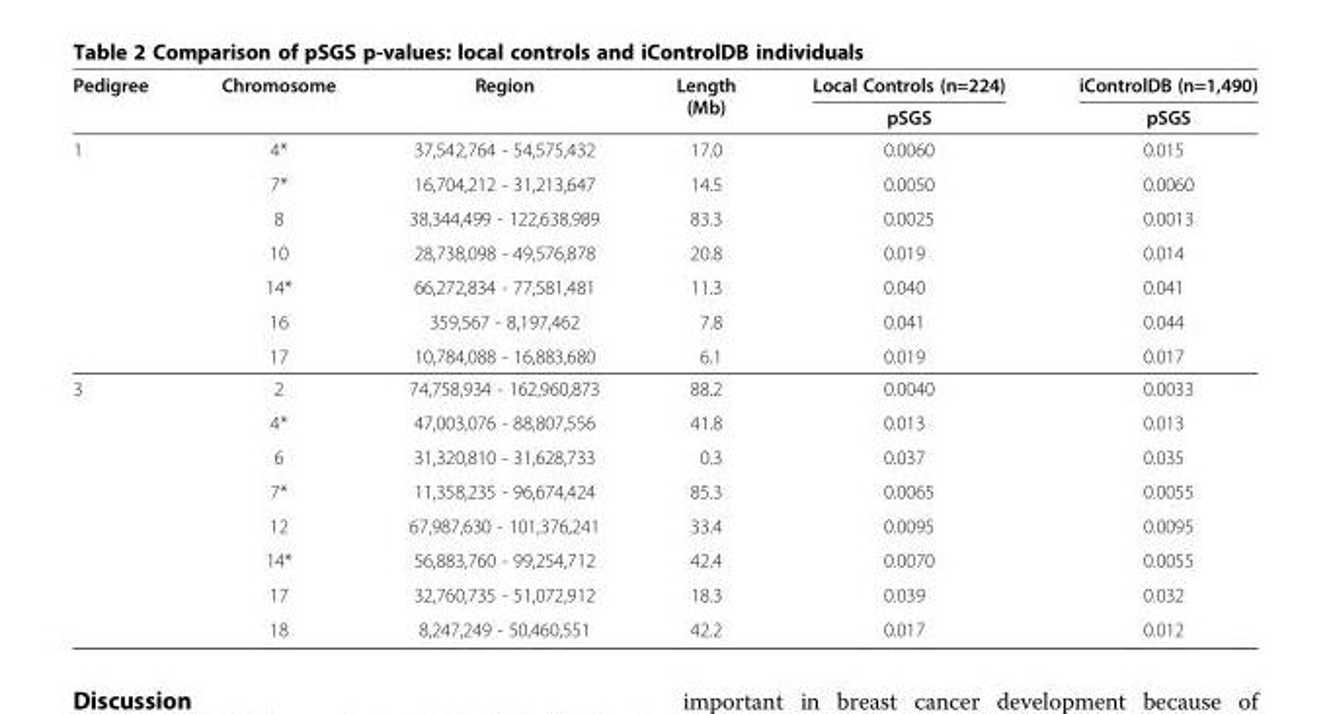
<table><thead><tr><td rowspan="2">Pedigree</td><td rowspan="2">Chromosome</td><td rowspan="2">Region</td><td rowspan="2">Length (Mb)</td><td rowspan="2">Local Controls (n=224) pSGS</td><td rowspan="2">iControlDB (n=1,490) pSGS</td></tr><tr></tr></thead><tbody><tr><td rowspan="7">1</td><td>4*</td><td>37,542,764 - 54,575,432</td><td>17.0</td><td>0.0060</td><td>0.015</td></tr><tr><td>7*</td><td>16,704,212 - 31,213,647</td><td>14.5</td><td>0.0050</td><td>0.0060</td></tr><tr><td>8</td><td>38,344,499 - 122,638,989</td><td>83.3</td><td>0.0025</td><td>0.0013</td></tr><tr><td>10</td><td>28,738,098 - 49,576,878</td><td>20.8</td><td>0.019</td><td>0.014</td></tr><tr><td>14*</td><td>66,272,834 - 77,581,481</td><td>11.3</td><td>0.040</td><td>0.041</td></tr><tr><td>16</td><td>359,567 - 8,197,462</td><td>7.8</td><td>0.041</td><td>0.044</td></tr><tr><td>17</td><td>10,784,088 - 16,883,680</td><td>6.1</td><td>0.019</td><td>0.017</td></tr><tr><td rowspan="8">3</td><td>2</td><td>74,758,934 - 162,960,873</td><td>88.2</td><td>0.0040</td><td>0.0033</td></tr><tr><td>4*</td><td>47,003,076 - 88,807,556</td><td>41.8</td><td>0.013</td><td>0.013</td></tr><tr><td>6</td><td>31,320,810 - 31,628,733</td><td>0.3</td><td>0.037</td><td>0.035</td></tr><tr><td>7*</td><td>11,358,235 - 96,674,424</td><td>85.3</td><td>0.0065</td><td>0.0055</td></tr><tr><td>12</td><td>67,987,630 - 101,376,241</td><td>33.4</td><td>0.0095</td><td>0.0095</td></tr><tr><td>14*</td><td>56,883,760 - 99,254,712</td><td>42.4</td><td>0.0070</td><td>0.0055</td></tr><tr><td>17</td><td>32,760,735 - 51,072,912</td><td>18.3</td><td>0.039</td><td>0.032</td></tr><tr><td>18</td><td>8,247,249 - 50,460,551</td><td>42.2</td><td>0.017</td><td>0.012</td></tr></tbody></table>